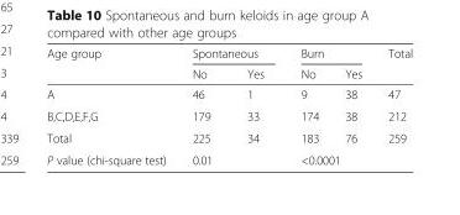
<table><thead><tr><td rowspan="2">Age group</td><td colspan="2">Spontaneous</td><td colspan="2">Burn</td><td rowspan="2">Total</td></tr><tr><td>No</td><td>Yes</td><td>No</td><td>Yes</td></tr></thead><tbody><tr><td>A</td><td>46</td><td>1</td><td>9</td><td>38</td><td>47</td></tr><tr><td>B,C,D,E,F,G</td><td>179</td><td>33</td><td>174</td><td>38</td><td>212</td></tr><tr><td>Total</td><td>225</td><td>34</td><td>183</td><td>76</td><td>259</td></tr><tr><td>P value (chi-square test)</td><td colspan="2">0.01</td><td colspan="2">&lt;0.0001</td><td></td></tr></tbody></table>